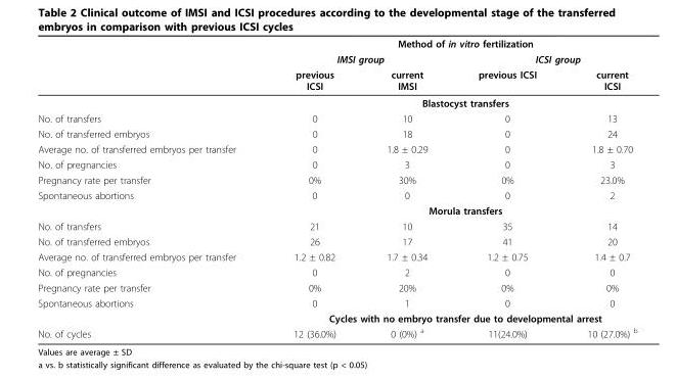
<table><thead><tr><td rowspan="3"></td><td colspan="4">Method of in vitro fertilization</td></tr><tr><td colspan="2">IMSI group</td><td colspan="2">ICSI group</td></tr><tr><td>previous ICSI</td><td>current IMSI</td><td>previous ICSI</td><td>current ICSI</td></tr></thead><tbody><tr><td></td><td colspan="4">Blastocyst transfers</td></tr><tr><td>No. of transfers</td><td>0</td><td>10</td><td>0</td><td>13</td></tr><tr><td>No. of transferred embryos</td><td>0</td><td>18</td><td>0</td><td>24</td></tr><tr><td>Average no. of transferred embryos per transfer</td><td>0</td><td>1.8 ± 0.29</td><td>0</td><td>1.8 ± 0.70</td></tr><tr><td>No. of pregnancies</td><td>0</td><td>3</td><td>0</td><td>3</td></tr><tr><td>Pregnancy rate per transfer</td><td>0%</td><td>30%</td><td>0%</td><td>23.0%</td></tr><tr><td rowspan="2">Spontaneous abortions</td><td>0</td><td>0</td><td>0</td><td>2</td></tr><tr><td colspan="4">Morula transfers</td></tr><tr><td>No. of transfers</td><td>21</td><td>10</td><td>35</td><td>14</td></tr><tr><td>No. of transferred embryos</td><td>26</td><td>17</td><td>41</td><td>20</td></tr><tr><td>Average no. of transferred embryos per transfer</td><td>1.2 ± 0.82</td><td>1.7 ± 0.34</td><td>1.2 ± 0.75</td><td>1.4 ± 0.7</td></tr><tr><td>No. of pregnancies</td><td>0</td><td>2</td><td>0</td><td>0</td></tr><tr><td>Pregnancy rate per transfer</td><td>0%</td><td>20%</td><td>0%</td><td>0%</td></tr><tr><td rowspan="2">Spontaneous abortions</td><td>0</td><td>1</td><td>0</td><td>0</td></tr><tr><td colspan="4">Cycles with no embryo transfer due to developmental arrest</td></tr><tr><td>No. of cycles</td><td>12 (36.0%)</td><td>0 (0%) <sup>a</sup></td><td>11(24.0%)</td><td>10 (27.0%) <sup>b</sup></td></tr></tbody></table>